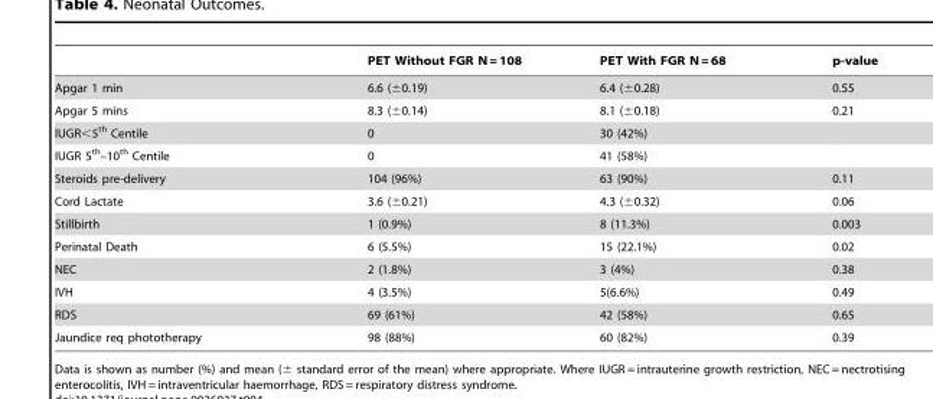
<table><thead><tr><td></td><td>PET Without FGR N = 108</td><td>PET With FGR N = 68</td><td>p-value</td></tr></thead><tbody><tr><td>Apgar 1 min</td><td>6.6 (±0.19)</td><td>6.4 (±0.28)</td><td>0.55</td></tr><tr><td>Apgar 5 mins</td><td>8.3 (±0.14)</td><td>8.1 (±0.18)</td><td>0.21</td></tr><tr><td>IUGR&lt;5<sup>th</sup> Centile</td><td>0</td><td>30 (42%)</td><td></td></tr><tr><td>IUGR 5<sup>th</sup>–10<sup>th</sup> Centile</td><td>0</td><td>41 (58%)</td><td></td></tr><tr><td>Steroids pre-delivery</td><td>104 (96%)</td><td>63 (90%)</td><td>0.11</td></tr><tr><td>Cord Lactate</td><td>3.6 (±0.21)</td><td>4.3 (±0.32)</td><td>0.06</td></tr><tr><td>Stillbirth</td><td>1 (0.9%)</td><td>8 (11.3%)</td><td>0.003</td></tr><tr><td>Perinatal Death</td><td>6 (5.5%)</td><td>15 (22.1%)</td><td>0.02</td></tr><tr><td>NEC</td><td>2 (1.8%)</td><td>3 (4%)</td><td>0.38</td></tr><tr><td>IVH</td><td>4 (3.5%)</td><td>5(6.6%)</td><td>0.49</td></tr><tr><td>RDS</td><td>69 (61%)</td><td>42 (58%)</td><td>0.65</td></tr><tr><td>Jaundice req phototherapy</td><td>98 (88%)</td><td>60 (82%)</td><td>0.39</td></tr></tbody></table>